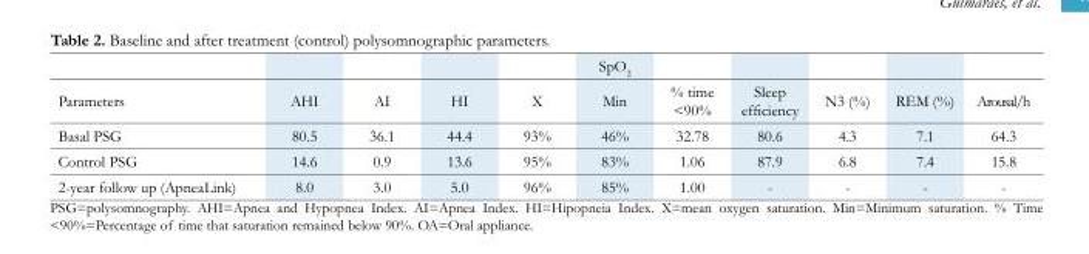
<table><thead><tr><td></td><td></td><td></td><td></td><td></td><td>SpO<sub>2</sub></td><td></td><td></td><td></td><td></td><td></td></tr></thead><tbody><tr><td>Parameters</td><td>AHI</td><td>AI</td><td>HI</td><td>X</td><td>Min</td><td>% time &lt;90%</td><td>Sleep efficiency</td><td>N3 (%)</td><td>REM (%)</td><td>Arousal/h</td></tr><tr><td>Basal PSG</td><td>80.5</td><td>36.1</td><td>44.4</td><td>93%</td><td>46%</td><td>32.78</td><td>80.6</td><td>4.3</td><td>7.1</td><td>64.3</td></tr><tr><td>Control PSG</td><td>14.6</td><td>0.9</td><td>13.6</td><td>95%</td><td>83%</td><td>1.06</td><td>87.9</td><td>6.8</td><td>7.4</td><td>15.8</td></tr><tr><td>2-year follow up (ApneaLink)</td><td>8.0</td><td>3.0</td><td>5.0</td><td>96%</td><td>85%</td><td>1.00</td><td>-</td><td>-</td><td>-</td><td>-</td></tr></tbody></table>